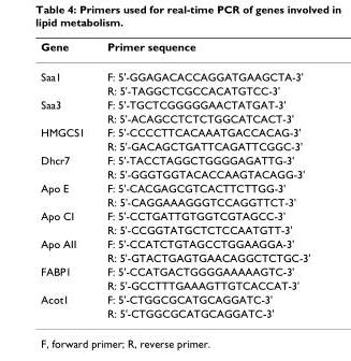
<table><thead><tr><td>Gene</td><td>Primer sequence</td></tr></thead><tbody><tr><td rowspan="2">Saa1</td><td>F: 5&#x27;-GGAGACACCAGGATGAAGCTA-3&#x27;</td></tr><tr><td>R: 5&#x27;-TAGGCTCGCCACATGTCC-3&#x27;</td></tr><tr><td rowspan="2">Saa3</td><td>F: 5&#x27;-TGCTCGGGGGAACTATGAT-3&#x27;</td></tr><tr><td>R: 5&#x27;-ACAGCCTCTCTGGCATCACT-3&#x27;</td></tr><tr><td rowspan="2">HMGCS1</td><td>F: 5&#x27;-CCCCTTCACAAATGACCACAG-3&#x27;</td></tr><tr><td>R: 5&#x27;-GACAGCTGATTCAGATTCGGC-3&#x27;</td></tr><tr><td rowspan="2">Dhcr7</td><td>F: 5&#x27;-TACCTAGGCTGGGGAGATTG-3&#x27;</td></tr><tr><td>R: 5&#x27;-GGGTGGTACACCAAGTACAGG-3&#x27;</td></tr><tr><td rowspan="2">Apo E</td><td>F: 5&#x27;-CACGAGCGTCACTTCTTGG-3&#x27;</td></tr><tr><td>R: 5&#x27;-CAGGAAAGGGTCCAGGTTCT-3&#x27;</td></tr><tr><td rowspan="2">Apo CI</td><td>F: 5&#x27;-CCTGATTGTGGTCGTAGCC-3&#x27;</td></tr><tr><td>R: 5&#x27;-CCGGTATGCTCTCCAATGTT-3&#x27;</td></tr><tr><td rowspan="2">Apo AII</td><td>F: 5&#x27;-CCATCTGTAGCCTGGAAGGA-3&#x27;</td></tr><tr><td>R: 5&#x27;-GTACTGAGTGAACAGGCTCTGC-3&#x27;</td></tr><tr><td rowspan="2">FABP1</td><td>F: 5&#x27;-CCATGACTGGGGAAAAAGTC-3&#x27;</td></tr><tr><td>R: 5&#x27;-GCCTTTGAAAGTTGTCACCAT-3&#x27;</td></tr><tr><td rowspan="2">Acot1</td><td>F: 5&#x27;-CTGGCGCATGCAGGATC-3&#x27;</td></tr><tr><td>R: 5&#x27;-CTGGCGCATGCAGGATC-3&#x27;</td></tr></tbody></table>